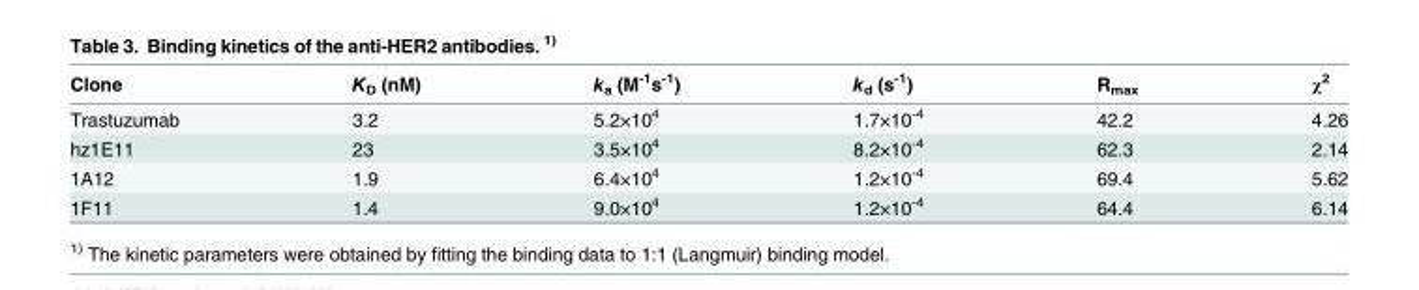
<table><thead><tr><td>Clone</td><td>K<sub>D</sub> (nM)</td><td>k<sub>a</sub> (M<sup>-1</sup>s<sup>-1</sup>)</td><td>k<sub>d</sub> (s<sup>-1</sup>)</td><td>R<sub>max</sub></td><td>χ<sup>2</sup></td></tr></thead><tbody><tr><td>Trastuzumab</td><td>3.2</td><td>5.2×10<sup>4</sup></td><td>1.7×10<sup>-4</sup></td><td>42.2</td><td>4.26</td></tr><tr><td>hz1E11</td><td>23</td><td>3.5×10<sup>4</sup></td><td>8.2×10<sup>-4</sup></td><td>62.3</td><td>2.14</td></tr><tr><td>1A12</td><td>1.9</td><td>6.4×10<sup>4</sup></td><td>1.2×10<sup>-4</sup></td><td>69.4</td><td>5.62</td></tr><tr><td>1F11</td><td>1.4</td><td>9.0×10<sup>4</sup></td><td>1.2×10<sup>-4</sup></td><td>64.4</td><td>6.14</td></tr></tbody></table>